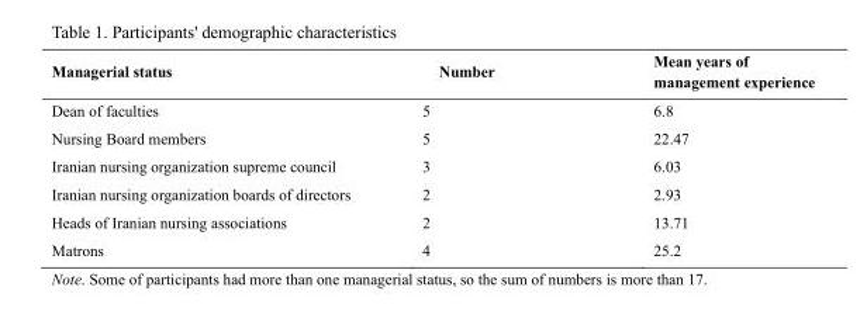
<table><thead><tr><td>Managerial status</td><td>Number</td><td>Mean years of management experience</td></tr></thead><tbody><tr><td>Dean of faculties</td><td>5</td><td>6.8</td></tr><tr><td>Nursing Board members</td><td>5</td><td>22.47</td></tr><tr><td>Iranian nursing organization supreme council</td><td>3</td><td>6.03</td></tr><tr><td>Iranian nursing organization boards of directors</td><td>2</td><td>2.93</td></tr><tr><td>Heads of Iranian nursing associations</td><td>2</td><td>13.71</td></tr><tr><td>Matrons</td><td>4</td><td>25.2</td></tr></tbody></table>